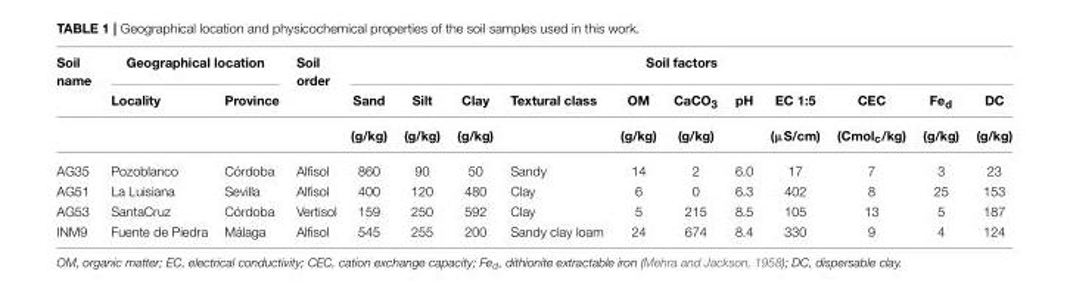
<table><thead><tr><td rowspan="3">Soil name</td><td colspan="2">Geographical location</td><td rowspan="3">Soil order</td><td colspan="11">Soil factors</td></tr><tr><td rowspan="2">Locality</td><td rowspan="2">Province</td><td rowspan="2">Sand (g/kg)</td><td rowspan="2">Silt (g/kg)</td><td rowspan="2">Clay (g/kg)</td><td rowspan="2">Textural class</td><td rowspan="2">OM (g/kg)</td><td rowspan="2">CaCO<sub>3</sub> (g/kg)</td><td rowspan="2">pH</td><td rowspan="2">EC 1:5 (µS/cm)</td><td rowspan="2">CEC (Cmol<sub>c</sub>/kg)</td><td rowspan="2">Fe<sub>d</sub> (g/kg)</td><td rowspan="2">DC (g/kg)</td></tr><tr></tr></thead><tbody><tr><td>AG35</td><td>Pozoblanco</td><td>Córdoba</td><td>Alfisol</td><td>860</td><td>90</td><td>50</td><td>Sandy</td><td>14</td><td>2</td><td>6.0</td><td>17</td><td>7</td><td>3</td><td>23</td></tr><tr><td>AG51</td><td>La Luisiana</td><td>Sevilla</td><td>Alfisol</td><td>400</td><td>120</td><td>480</td><td>Clay</td><td>6</td><td>0</td><td>6.3</td><td>402</td><td>8</td><td>25</td><td>153</td></tr><tr><td>AG53</td><td>SantaCruz</td><td>Córdoba</td><td>Vertisol</td><td>159</td><td>250</td><td>592</td><td>Clay</td><td>5</td><td>215</td><td>8.5</td><td>105</td><td>13</td><td>5</td><td>187</td></tr><tr><td>INM9</td><td>Fuente de Piedra</td><td>Málaga</td><td>Alfisol</td><td>545</td><td>255</td><td>200</td><td>Sandy clay loam</td><td>24</td><td>674</td><td>8.4</td><td>330</td><td>9</td><td>4</td><td>124</td></tr></tbody></table>